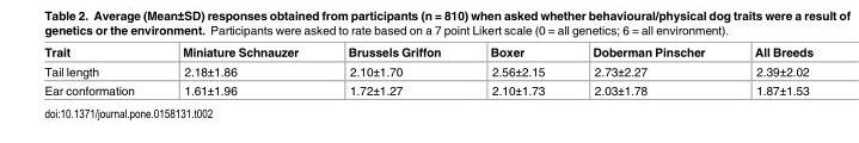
<table><thead><tr><td>Trait</td><td>Miniature Schnauzer</td><td>Brussels Griffon</td><td>Boxer</td><td>Doberman Pinscher</td><td>All Breeds</td></tr></thead><tbody><tr><td>Tail length</td><td>2.18±1.86</td><td>2.10±1.70</td><td>2.56±2.15</td><td>2.73±2.27</td><td>2.39±2.02</td></tr><tr><td>Ear conformation</td><td>1.61±1.96</td><td>1.72±1.27</td><td>2.10±1.73</td><td>2.03±1.78</td><td>1.87±1.53</td></tr></tbody></table>